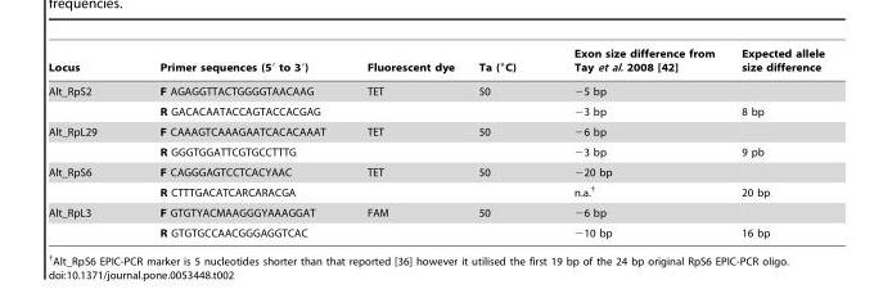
<table><thead><tr><td>Locus</td><td>Primer sequences (5′ to 3′)</td><td>Fluorescent dye</td><td>Ta (°C)</td><td>Exon size difference from Tay et al. 2008 [42]</td><td>Expected allele size difference</td></tr></thead><tbody><tr><td rowspan="2">Alt_RpS2</td><td>F AGAGGTTACTGGGGTAACAAG</td><td>TET</td><td>50</td><td>−5 bp</td><td></td></tr><tr><td>R GACACAATACCAGTACCACGAG</td><td></td><td></td><td>−3 bp</td><td>8 bp</td></tr><tr><td rowspan="2">Alt_RpL29</td><td>F CAAAGTCAAAGAATCACACAAAT</td><td>TET</td><td>50</td><td>−6 bp</td><td></td></tr><tr><td>R GGGTGGATTCGTGCCTTTG</td><td></td><td></td><td>−3 bp</td><td>9 pb</td></tr><tr><td rowspan="2">Alt_RpS6</td><td>F CAGGGAGTCCTCACYAAC</td><td>TET</td><td>50</td><td>−20 bp</td><td></td></tr><tr><td>R CTTTGACATCARCARACGA</td><td></td><td></td><td>n.a.†</td><td>20 bp</td></tr><tr><td rowspan="2">Alt_RpL3</td><td>F GTGTYACMAAGGGYAAAGGAT</td><td>FAM</td><td>50</td><td>−6 bp</td><td></td></tr><tr><td>R GTGTGCCAACGGGAGGTCAC</td><td></td><td></td><td>−10 bp</td><td>16 bp</td></tr></tbody></table>